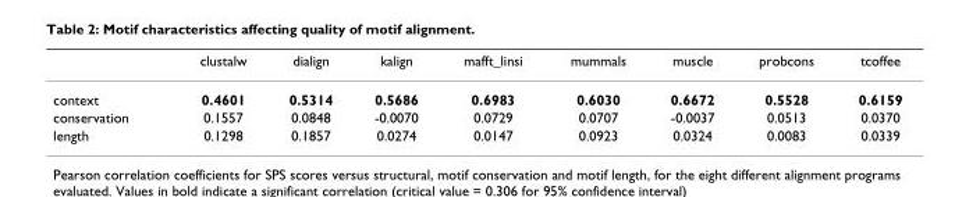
<table><thead><tr><td></td><td>clustalw</td><td>dialign</td><td>kalign</td><td>mafft_linsi</td><td>mummals</td><td>muscle</td><td>probcons</td><td>tcoffee</td></tr></thead><tbody><tr><td>context</td><td>0.4601</td><td>0.5314</td><td>0.5686</td><td>0.6983</td><td>0.6030</td><td>0.6672</td><td>0.5528</td><td>0.6159</td></tr><tr><td>conservation</td><td>0.1557</td><td>0.0848</td><td>-0.0070</td><td>0.0729</td><td>0.0707</td><td>-0.0037</td><td>0.0513</td><td>0.0370</td></tr><tr><td>length</td><td>0.1298</td><td>0.1857</td><td>0.0274</td><td>0.0147</td><td>0.0923</td><td>0.0324</td><td>0.0083</td><td>0.0339</td></tr></tbody></table>